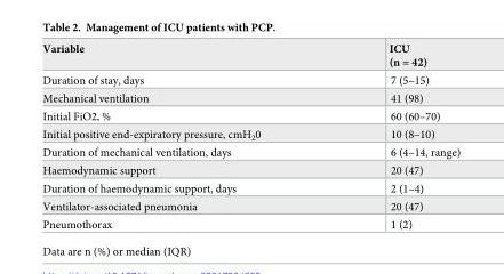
<table><thead><tr><td>Variable</td><td>ICU (n = 42)</td></tr></thead><tbody><tr><td>Duration of stay, days</td><td>7 (5–15)</td></tr><tr><td>Mechanical ventilation</td><td>41 (98)</td></tr><tr><td>Initial FiO2, %</td><td>60 (60–70)</td></tr><tr><td>Initial positive end-expiratory pressure, cmH<sub>2</sub>0</td><td>10 (8–10)</td></tr><tr><td>Duration of mechanical ventilation, days</td><td>6 (4–14, range)</td></tr><tr><td>Haemodynamic support</td><td>20 (47)</td></tr><tr><td>Duration of haemodynamic support, days</td><td>2 (1–4)</td></tr><tr><td>Ventilator-associated pneumonia</td><td>20 (47)</td></tr><tr><td>Pneumothorax</td><td>1 (2)</td></tr></tbody></table>